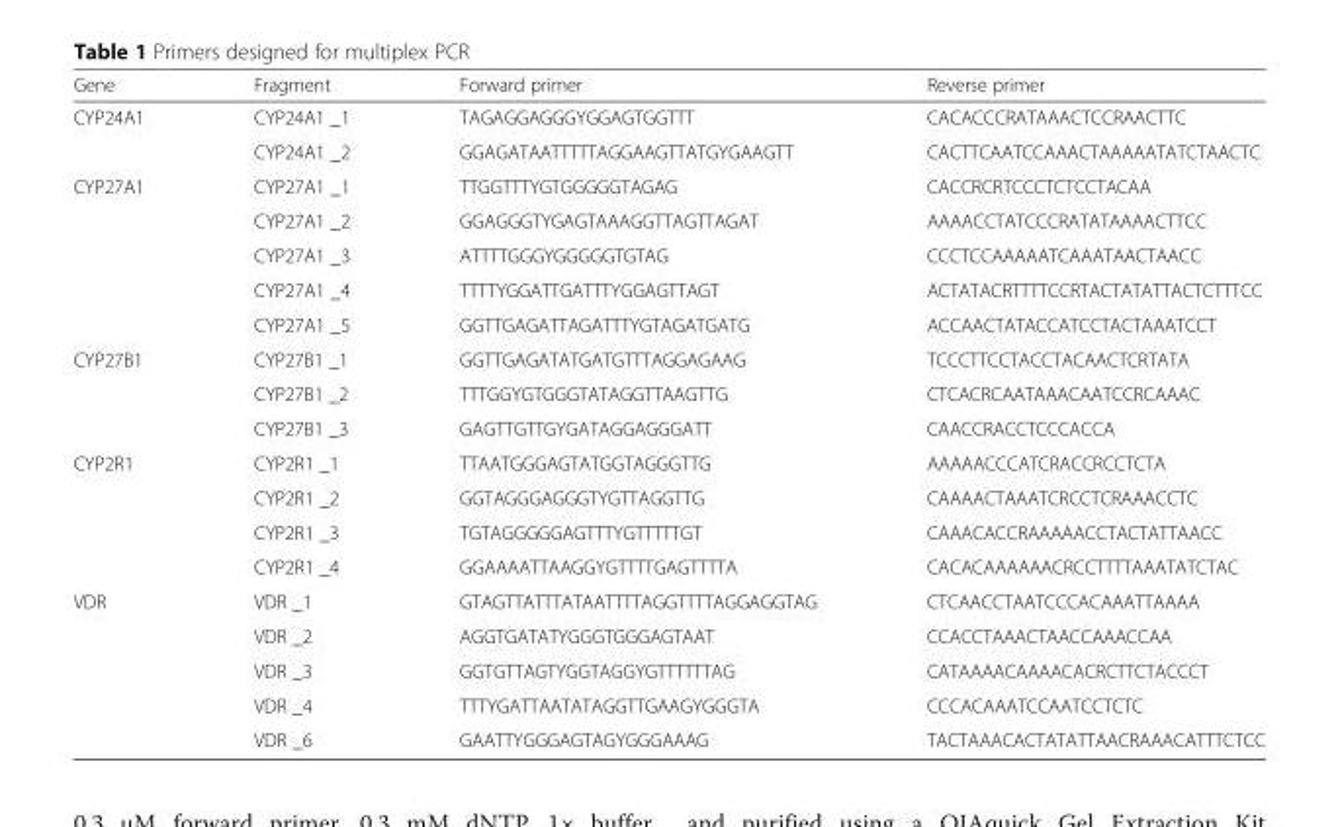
<table><thead><tr><td>Gene</td><td>Fragment</td><td>Forward primer</td><td>Reverse primer</td></tr></thead><tbody><tr><td rowspan="2">CYP24A1</td><td>CYP24A1 _1</td><td>TAGAGGAGGGYGGAGTGGTTT</td><td>CACACCCRATAAACTCCRAACTTC</td></tr><tr><td>CYP24A1 _2</td><td>GGAGATAATTTTTAGGAAGTTATGYGAAGTT</td><td>CACTTCAATCCAAACTAAAAATATCTAACTC</td></tr><tr><td rowspan="5">CYP27A1</td><td>CYP27A1 _1</td><td>TTGGTTTYGTGGGGGTAGAG</td><td>CACCRCRTCCCTCTCCTACAA</td></tr><tr><td>CYP27A1 _2</td><td>GGAGGGTYGAGTAAAGGTTAGTTAGAT</td><td>AAAACCTATCCCRATATAAAACTTCC</td></tr><tr><td>CYP27A1 _3</td><td>ATTTTGGGYGGGGGTGTAG</td><td>CCCTCCAAAAATCAAATAACTAACC</td></tr><tr><td>CYP27A1 _4</td><td>TTTTYGGATTGATTTYGGAGTTAGT</td><td>ACTATACRTTTTCCRTACTATATTACTCTTTCC</td></tr><tr><td>CYP27A1 _5</td><td>GGTTGAGATTAGATTTYGTAGATGATG</td><td>ACCAACTATACCATCCTACTAAATCCT</td></tr><tr><td rowspan="3">CYP27B1</td><td>CYP27B1 _1</td><td>GGTTGAGATATGATGTTTAGGAGAAG</td><td>TCCCTTCCTACCTACAACTCRTATA</td></tr><tr><td>CYP27B1 _2</td><td>TTTGGYGTGGGTATAGGTTAAGTTG</td><td>CTCACRCAATAAACAATCCRCAAAC</td></tr><tr><td>CYP27B1 _3</td><td>GAGTTGTTGYGATAGGAGGGATT</td><td>CAACCRACCTCCCACCA</td></tr><tr><td rowspan="4">CYP2R1</td><td>CYP2R1 _1</td><td>TTAATGGGAGTATGGTAGGGTTG</td><td>AAAAACCCATCRACCRCCTCTA</td></tr><tr><td>CYP2R1 _2</td><td>GGTAGGGAGGGTYGTTAGGTTG</td><td>CAAAACTAAATCRCCTCRAAACCTC</td></tr><tr><td>CYP2R1 _3</td><td>TGTAGGGGGAGTTTYGTTTTTGT</td><td>CAAACACCRAAAAACCTACTATTAACC</td></tr><tr><td>CYP2R1 _4</td><td>GGAAAATTAAGGYGTTTTGAGTTTTA</td><td>CACACAAAAAACRCCTTTTAAATATCTAC</td></tr><tr><td rowspan="5">VDR</td><td>VDR _1</td><td>GTAGTTATTTATAATTTTAGGTTTTAGGAGGTAG</td><td>CTCAACCTAATCCCACAAATTAAAA</td></tr><tr><td>VDR _2</td><td>AGGTGATATYGGGTGGGAGTAAT</td><td>CCACCTAAACTAACCAAACCAA</td></tr><tr><td>VDR _3</td><td>GGTGTTAGTYGGTAGGYGTTTTTTAG</td><td>CATAAAACAAAACACRCTTCTACCCT</td></tr><tr><td>VDR _4</td><td>TTTYGATTAATATAGGTTGAAGYGGGTA</td><td>CCCACAAATCCAATCCTCTC</td></tr><tr><td>VDR _6</td><td>GAATTYGGGAGTAGYGGGAAAG</td><td>TACTAAACACTATATTAACRAAACATTTCTCC</td></tr></tbody></table>